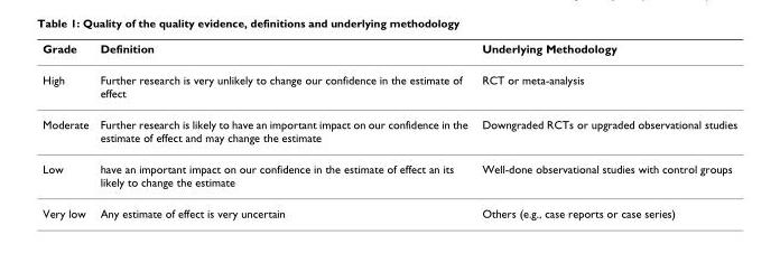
<table><thead><tr><td>Grade</td><td>Definition</td><td>Underlying Methodology</td></tr></thead><tbody><tr><td>High</td><td>Further research is very unlikely to change our confidence in the estimate of effect</td><td>RCT or meta-analysis</td></tr><tr><td>Moderate</td><td>Further research is likely to have an important impact on our confidence in the estimate of effect and may change the estimate</td><td>Downgraded RCTs or upgraded observational studies</td></tr><tr><td>Low</td><td>have an important impact on our confidence in the estimate of effect an its likely to change the estimate</td><td>Well-done observational studies with control groups</td></tr><tr><td>Very low</td><td>Any estimate of effect is very uncertain</td><td>Others (e.g., case reports or case series)</td></tr></tbody></table>